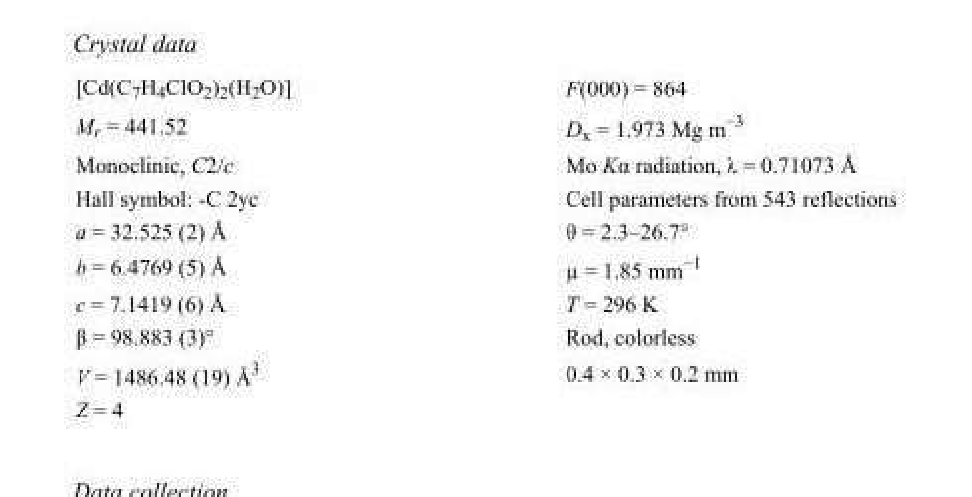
<table><tbody><tr><td>[Cd(C<sub>7</sub>H<sub>4</sub>ClO<sub>2</sub>)<sub>2</sub>(H<sub>2</sub>O)]</td><td>F(000) = 864</td></tr><tr><td>M<sub>r</sub> = 441.52</td><td>D<sub>x</sub> = 1.973 Mg m<sup>−3</sup></td></tr><tr><td>Monoclinic, C2/c</td><td>Mo Kα radiation, λ = 0.71073 Å</td></tr><tr><td>Hall symbol: -C 2yc</td><td>Cell parameters from 543 reflections</td></tr><tr><td>a = 32.525 (2) Å</td><td>θ = 2.3–26.7°</td></tr><tr><td>b = 6.4769 (5) Å</td><td>µ = 1.85 mm<sup>−1</sup></td></tr><tr><td>c = 7.1419 (6) Å</td><td>T = 296 K</td></tr><tr><td>β = 98.883 (3)°</td><td>Rod, colorless</td></tr><tr><td>V = 1486.48 (19) Å<sup>3</sup></td><td>0.4 × 0.3 × 0.2 mm</td></tr><tr><td>Z = 4</td><td></td></tr></tbody></table>